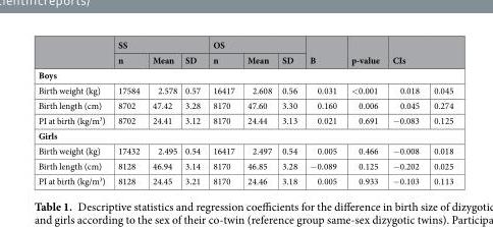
<table><thead><tr><td rowspan="2"></td><td colspan="3">SS</td><td colspan="3">OS</td><td rowspan="2">B</td><td rowspan="2">p-value</td><td rowspan="2" colspan="2">CIs</td></tr><tr><td>n</td><td>Mean</td><td>SD</td><td>n</td><td>Mean</td><td>SD</td></tr><tr><td colspan="11">Boys</td></tr><tr><td>Birth weight (kg)</td><td>17584</td><td>2.578</td><td>0.57</td><td>16417</td><td>2.608</td><td>0.56</td><td>0.031</td><td>&lt;0.001</td><td>0.018</td><td>0.045</td></tr></thead><tbody><tr><td>Birth length (cm)</td><td>8702</td><td>47.42</td><td>3.28</td><td>8170</td><td>47.60</td><td>3.30</td><td>0.160</td><td>0.006</td><td>0.045</td><td>0.274</td></tr><tr><td>PI at birth (kg/m<sup>3</sup>)</td><td>8702</td><td>24.41</td><td>3.12</td><td>8170</td><td>24.44</td><td>3.13</td><td>0.021</td><td>0.691</td><td>−0.083</td><td>0.125</td></tr><tr><td colspan="11">Girls</td></tr><tr><td>Birth weight (kg)</td><td>17432</td><td>2.495</td><td>0.54</td><td>16417</td><td>2.497</td><td>0.54</td><td>0.005</td><td>0.466</td><td>−0.008</td><td>0.018</td></tr><tr><td>Birth length (cm)</td><td>8128</td><td>46.94</td><td>3.14</td><td>8170</td><td>46.85</td><td>3.28</td><td>−0.089</td><td>0.125</td><td>−0.202</td><td>0.025</td></tr><tr><td>PI at birth (kg/m<sup>3</sup>)</td><td>8128</td><td>24.45</td><td>3.21</td><td>8170</td><td>24.46</td><td>3.18</td><td>0.005</td><td>0.933</td><td>−0.103</td><td>0.113</td></tr></tbody></table>